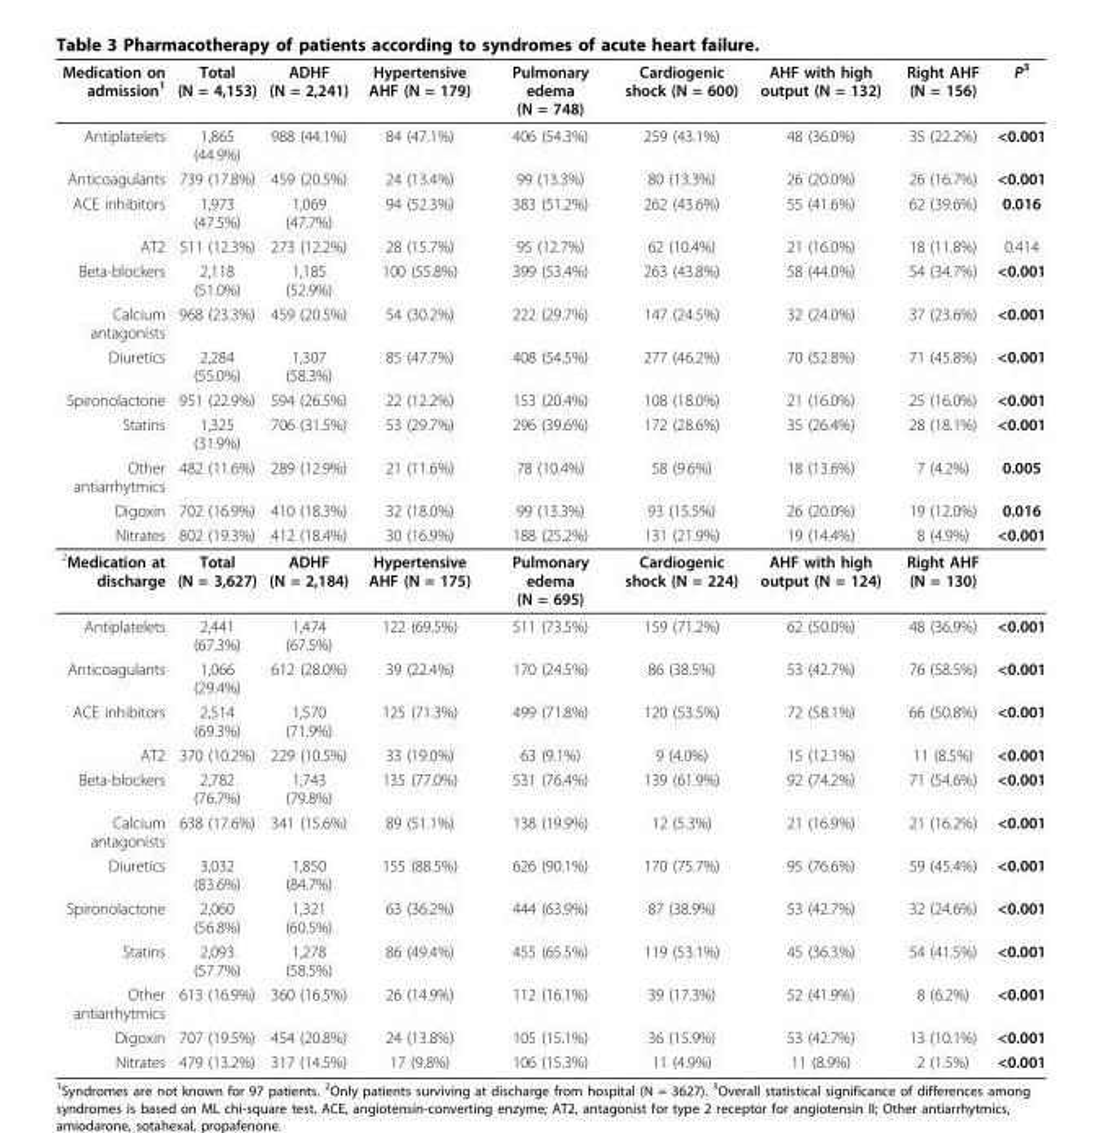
<table><thead><tr><td>Medication on admission<sup>1</sup></td><td>Total (N = 4,153)</td><td>ADHF (N = 2,241)</td><td>Hypertensive AHF (N = 179)</td><td>Pulmonary edema (N = 748)</td><td>Cardiogenic shock (N = 600)</td><td>AHF with high output (N = 132)</td><td>Right AHF (N = 156)</td><td>P<sup>3</sup></td></tr></thead><tbody><tr><td>Antiplatelets</td><td>1,865 (44.9%)</td><td>988 (44.1%)</td><td>84 (47.1%)</td><td>406 (54.3%)</td><td>259 (43.1%)</td><td>48 (36.0%)</td><td>35 (22.2%)</td><td>&lt;0.001</td></tr><tr><td>Anticoagulants</td><td>739 (17.8%)</td><td>459 (20.5%)</td><td>24 (13.4%)</td><td>99 (13.3%)</td><td>80 (13.3%)</td><td>26 (20.0%)</td><td>26 (16.7%)</td><td>&lt;0.001</td></tr><tr><td>ACE inhibitors</td><td>1,973 (47.5%)</td><td>1,069 (47.7%)</td><td>94 (52.3%)</td><td>383 (51.2%)</td><td>262 (43.6%)</td><td>55 (41.6%)</td><td>62 (39.6%)</td><td>0.016</td></tr><tr><td>AT2</td><td>511 (12.3%)</td><td>273 (12.2%)</td><td>28 (15.7%)</td><td>95 (12.7%)</td><td>62 (10.4%)</td><td>21 (16.0%)</td><td>18 (11.8%)</td><td>0.414</td></tr><tr><td>Beta-blockers</td><td>2,118 (51.0%)</td><td>1,185 (52.9%)</td><td>100 (55.8%)</td><td>399 (53.4%)</td><td>263 (43.8%)</td><td>58 (44.0%)</td><td>54 (34.7%)</td><td>&lt;0.001</td></tr><tr><td>Calcium antagonists</td><td>968 (23.3%)</td><td>459 (20.5%)</td><td>54 (30.2%)</td><td>222 (29.7%)</td><td>147 (24.5%)</td><td>32 (24.0%)</td><td>37 (23.6%)</td><td>&lt;0.001</td></tr><tr><td>Diuretics</td><td>2,284 (55.0%)</td><td>1,307 (58.3%)</td><td>85 (47.7%)</td><td>408 (54.5%)</td><td>277 (46.2%)</td><td>70 (52.8%)</td><td>71 (45.8%)</td><td>&lt;0.001</td></tr><tr><td>Spironolactone</td><td>951 (22.9%)</td><td>594 (26.5%)</td><td>22 (12.2%)</td><td>153 (20.4%)</td><td>108 (18.0%)</td><td>21 (16.0%)</td><td>25 (16.0%)</td><td>&lt;0.001</td></tr><tr><td>Statins</td><td>1,325 (31.9%)</td><td>706 (31.5%)</td><td>53 (29.7%)</td><td>296 (39.6%)</td><td>172 (28.6%)</td><td>35 (26.4%)</td><td>28 (18.1%)</td><td>&lt;0.001</td></tr><tr><td>Other antiarrhytmics</td><td>482 (11.6%)</td><td>289 (12.9%)</td><td>21 (11.6%)</td><td>78 (10.4%)</td><td>58 (9.6%)</td><td>18 (13.6%)</td><td>7 (4.2%)</td><td>0.005</td></tr><tr><td>Digoxin</td><td>702 (16.9%)</td><td>410 (18.3%)</td><td>32 (18.0%)</td><td>99 (13.3%)</td><td>93 (15.5%)</td><td>26 (20.0%)</td><td>19 (12.0%)</td><td>0.016</td></tr><tr><td>Nitrates</td><td>802 (19.3%)</td><td>412 (18.4%)</td><td>30 (16.9%)</td><td>188 (25.2%)</td><td>131 (21.9%)</td><td>19 (14.4%)</td><td>8 (4.9%)</td><td>&lt;0.001</td></tr><tr><td><sup>2</sup>Medication at discharge</td><td>Total (N = 3,627)</td><td>ADHF (N = 2,184)</td><td>Hypertensive AHF (N = 175)</td><td>Pulmonary edema (N = 695)</td><td>Cardiogenic shock (N = 224)</td><td>AHF with high output (N = 124)</td><td>Right AHF (N = 130)</td><td></td></tr><tr><td>Antiplatelets</td><td>2,441 (67.3%)</td><td>1,474 (67.5%)</td><td>122 (69.5%)</td><td>511 (73.5%)</td><td>159 (71.2%)</td><td>62 (50.0%)</td><td>48 (36.9%)</td><td>&lt;0.001</td></tr><tr><td>Anticoagulants</td><td>1,066 (29.4%)</td><td>612 (28.0%)</td><td>39 (22.4%)</td><td>170 (24.5%)</td><td>86 (38.5%)</td><td>53 (42.7%)</td><td>76 (58.5%)</td><td>&lt;0.001</td></tr><tr><td>ACE inhibitors</td><td>2,514 (69.3%)</td><td>1,570 (71.9%)</td><td>125 (71.3%)</td><td>499 (71.8%)</td><td>120 (53.5%)</td><td>72 (58.1%)</td><td>66 (50.8%)</td><td>&lt;0.001</td></tr><tr><td>AT2</td><td>370 (10.2%)</td><td>229 (10.5%)</td><td>33 (19.0%)</td><td>63 (9.1%)</td><td>9 (4.0%)</td><td>15 (12.1%)</td><td>11 (8.5%)</td><td>&lt;0.001</td></tr><tr><td>Beta-blockers</td><td>2,782 (76.7%)</td><td>1,743 (79.8%)</td><td>135 (77.0%)</td><td>531 (76.4%)</td><td>139 (61.9%)</td><td>92 (74.2%)</td><td>71 (54.6%)</td><td>&lt;0.001</td></tr><tr><td>Calcium antagonists</td><td>638 (17.6%)</td><td>341 (15.6%)</td><td>89 (51.1%)</td><td>138 (19.9%)</td><td>12 (5.3%)</td><td>21 (16.9%)</td><td>21 (16.2%)</td><td>&lt;0.001</td></tr><tr><td>Diuretics</td><td>3,032 (83.6%)</td><td>1,850 (84.7%)</td><td>155 (88.5%)</td><td>626 (90.1%)</td><td>170 (75.7%)</td><td>95 (76.6%)</td><td>59 (45.4%)</td><td>&lt;0.001</td></tr><tr><td>Spironolactone</td><td>2,060 (56.8%)</td><td>1,321 (60.5%)</td><td>63 (36.2%)</td><td>444 (63.9%)</td><td>87 (38.9%)</td><td>53 (42.7%)</td><td>32 (24.6%)</td><td>&lt;0.001</td></tr><tr><td>Statins</td><td>2,093 (57.7%)</td><td>1,278 (58.5%)</td><td>86 (49.4%)</td><td>455 (65.5%)</td><td>119 (53.1%)</td><td>45 (36.3%)</td><td>54 (41.5%)</td><td>&lt;0.001</td></tr><tr><td>Other antiarrhytmics</td><td>613 (16.9%)</td><td>360 (16.5%)</td><td>26 (14.9%)</td><td>112 (16.1%)</td><td>39 (17.3%)</td><td>52 (41.9%)</td><td>8 (6.2%)</td><td>&lt;0.001</td></tr><tr><td>Digoxin</td><td>707 (19.5%)</td><td>454 (20.8%)</td><td>24 (13.8%)</td><td>105 (15.1%)</td><td>36 (15.9%)</td><td>53 (42.7%)</td><td>13 (10.1%)</td><td>&lt;0.001</td></tr><tr><td>Nitrates</td><td>479 (13.2%)</td><td>317 (14.5%)</td><td>17 (9.8%)</td><td>106 (15.3%)</td><td>11 (4.9%)</td><td>11 (8.9%)</td><td>2 (1.5%)</td><td>&lt;0.001</td></tr></tbody></table>